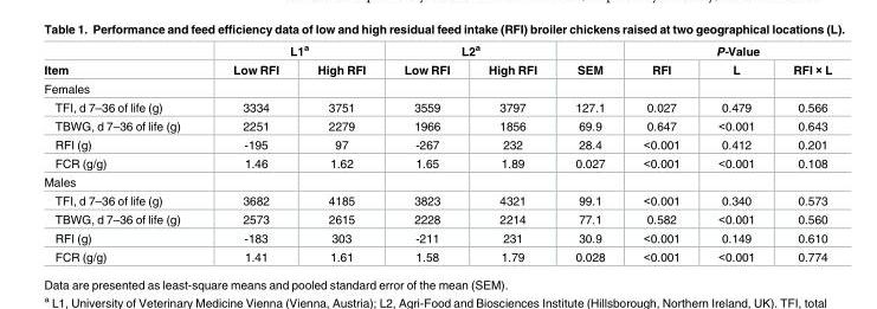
<table><thead><tr><td rowspan="2">Item</td><td colspan="2">L1<sup>a</sup></td><td colspan="2">L2<sup>a</sup></td><td rowspan="2">SEM</td><td colspan="3">P-Value</td></tr><tr><td>Low RFI</td><td>High RFI</td><td>Low RFI</td><td>High RFI</td><td>RFI</td><td>L</td><td>RFI × L</td></tr></thead><tbody><tr><td colspan="9">Females</td></tr><tr><td>TFI, d 7–36 of life (g)</td><td>3334</td><td>3751</td><td>3559</td><td>3797</td><td>127.1</td><td>0.027</td><td>0.479</td><td>0.566</td></tr><tr><td>TBWG, d 7–36 of life (g)</td><td>2251</td><td>2279</td><td>1966</td><td>1856</td><td>69.9</td><td>0.647</td><td>&lt;0.001</td><td>0.643</td></tr><tr><td>RFI (g)</td><td>-195</td><td>97</td><td>-267</td><td>232</td><td>28.4</td><td>&lt;0.001</td><td>0.412</td><td>0.201</td></tr><tr><td>FCR (g/g)</td><td>1.46</td><td>1.62</td><td>1.65</td><td>1.89</td><td>0.027</td><td>&lt;0.001</td><td>&lt;0.001</td><td>0.108</td></tr><tr><td colspan="9">Males</td></tr><tr><td>TFI, d 7–36 of life (g)</td><td>3682</td><td>4185</td><td>3823</td><td>4321</td><td>99.1</td><td>&lt;0.001</td><td>0.340</td><td>0.573</td></tr><tr><td>TBWG, d 7–36 of life (g)</td><td>2573</td><td>2615</td><td>2228</td><td>2214</td><td>77.1</td><td>0.582</td><td>&lt;0.001</td><td>0.560</td></tr><tr><td>RFI (g)</td><td>-183</td><td>303</td><td>-211</td><td>231</td><td>30.9</td><td>&lt;0.001</td><td>0.149</td><td>0.610</td></tr><tr><td>FCR (g/g)</td><td>1.41</td><td>1.61</td><td>1.58</td><td>1.79</td><td>0.028</td><td>&lt;0.001</td><td>&lt;0.001</td><td>0.774</td></tr></tbody></table>